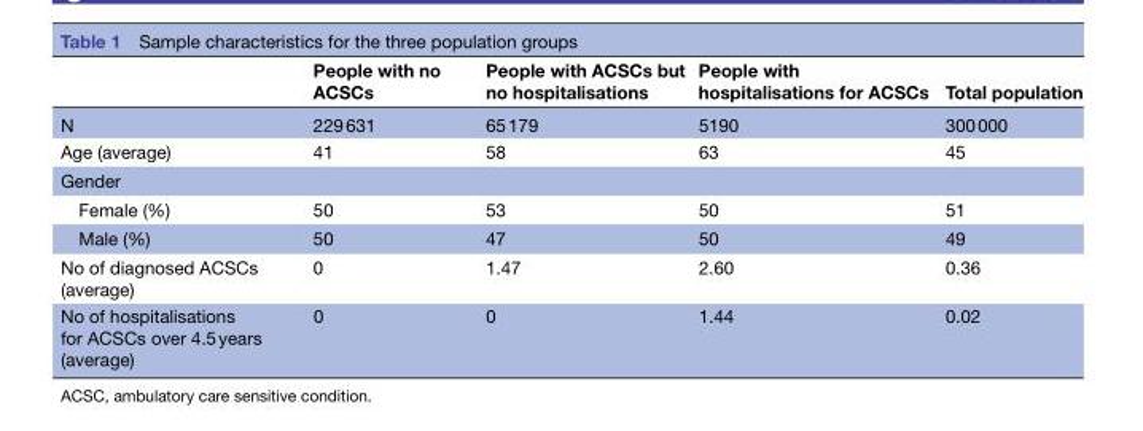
<table><thead><tr><td></td><td>People with no ACSCs</td><td>People with ACSCs but no hospitalisations</td><td>People with hospitalisations for ACSCs</td><td>Total population</td></tr></thead><tbody><tr><td>N</td><td>229 631</td><td>65 179</td><td>5190</td><td>300 000</td></tr><tr><td>Age (average)</td><td>41</td><td>58</td><td>63</td><td>45</td></tr><tr><td colspan="5">Gender</td></tr><tr><td>Female (%)</td><td>50</td><td>53</td><td>50</td><td>51</td></tr><tr><td>Male (%)</td><td>50</td><td>47</td><td>50</td><td>49</td></tr><tr><td>No of diagnosed ACSCs (average)</td><td>0</td><td>1.47</td><td>2.60</td><td>0.36</td></tr><tr><td>No of hospitalisations for ACSCs over 4.5 years (average)</td><td>0</td><td>0</td><td>1.44</td><td>0.02</td></tr></tbody></table>